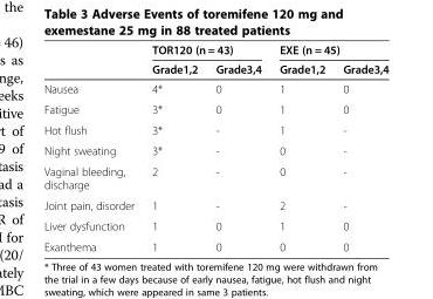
<table><thead><tr><td rowspan="2"></td><td colspan="2">TOR120 (n = 43)</td><td colspan="2">EXE (n = 45)</td></tr><tr><td>Grade1,2</td><td>Grade3,4</td><td>Grade1,2</td><td>Grade3,4</td></tr></thead><tbody><tr><td>Nausea</td><td>4*</td><td>0</td><td>1</td><td>0</td></tr><tr><td>Fatigue</td><td>3*</td><td>0</td><td>1</td><td>0</td></tr><tr><td>Hot flush</td><td>3*</td><td>-</td><td>1</td><td>-</td></tr><tr><td>Night sweating</td><td>3*</td><td>-</td><td>0</td><td>-</td></tr><tr><td>Vaginal bleeding, discharge</td><td>2</td><td>-</td><td>0</td><td>-</td></tr><tr><td>Joint pain, disorder</td><td>1</td><td>-</td><td>2</td><td>-</td></tr><tr><td>Liver dysfunction</td><td>1</td><td>0</td><td>1</td><td>0</td></tr><tr><td>Exanthema</td><td>1</td><td>0</td><td>0</td><td>0</td></tr></tbody></table>